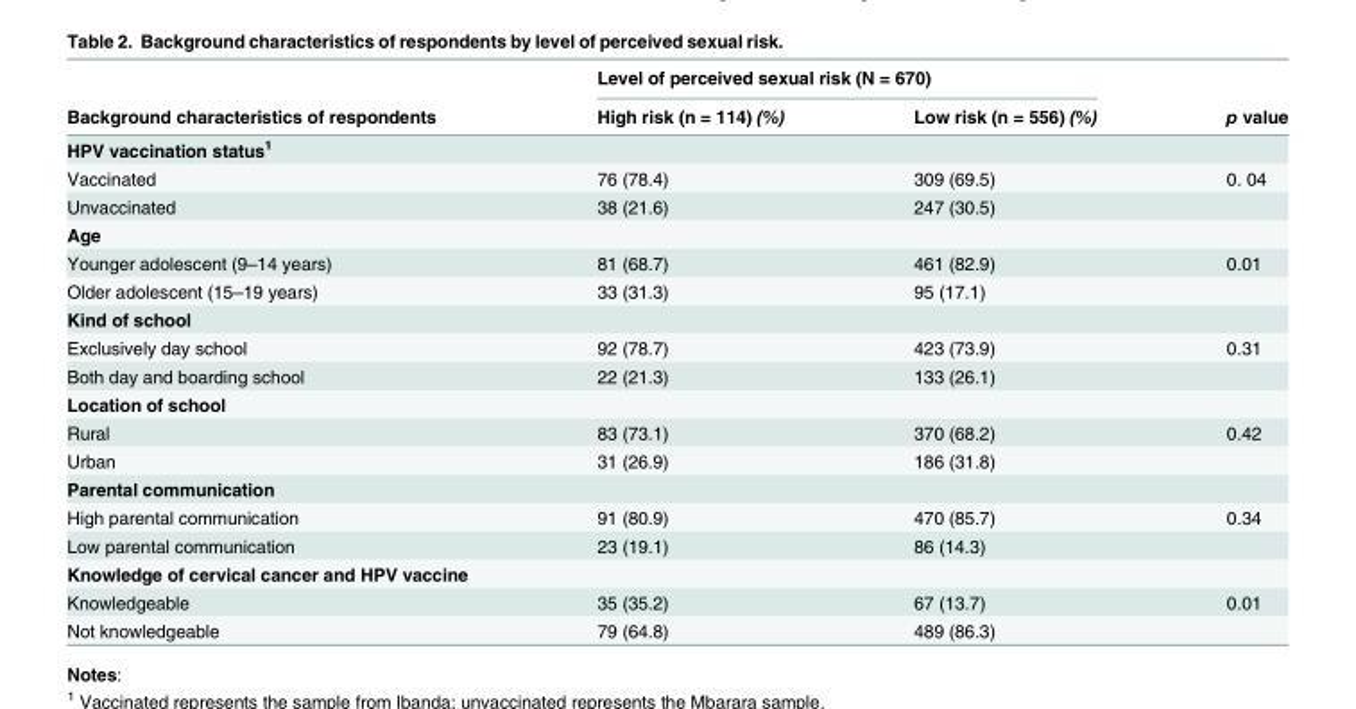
<table><thead><tr><td rowspan="2">Background characteristics of respondents</td><td colspan="2">Level of perceived sexual risk (N = 670)</td><td rowspan="2">p value</td></tr><tr><td>High risk (n = 114) (%)</td><td>Low risk (n = 556) (%)</td></tr></thead><tbody><tr><td colspan="4">HPV vaccination status<sup>1</sup></td></tr><tr><td>Vaccinated</td><td>76 (78.4)</td><td>309 (69.5)</td><td>0. 04</td></tr><tr><td>Unvaccinated</td><td>38 (21.6)</td><td>247 (30.5)</td><td></td></tr><tr><td colspan="4">Age</td></tr><tr><td>Younger adolescent (9–14 years)</td><td>81 (68.7)</td><td>461 (82.9)</td><td>0.01</td></tr><tr><td>Older adolescent (15–19 years)</td><td>33 (31.3)</td><td>95 (17.1)</td><td></td></tr><tr><td colspan="4">Kind of school</td></tr><tr><td>Exclusively day school</td><td>92 (78.7)</td><td>423 (73.9)</td><td>0.31</td></tr><tr><td>Both day and boarding school</td><td>22 (21.3)</td><td>133 (26.1)</td><td></td></tr><tr><td colspan="4">Location of school</td></tr><tr><td>Rural</td><td>83 (73.1)</td><td>370 (68.2)</td><td>0.42</td></tr><tr><td>Urban</td><td>31 (26.9)</td><td>186 (31.8)</td><td></td></tr><tr><td colspan="4">Parental communication</td></tr><tr><td>High parental communication</td><td>91 (80.9)</td><td>470 (85.7)</td><td>0.34</td></tr><tr><td>Low parental communication</td><td>23 (19.1)</td><td>86 (14.3)</td><td></td></tr><tr><td colspan="4">Knowledge of cervical cancer and HPV vaccine</td></tr><tr><td>Knowledgeable</td><td>35 (35.2)</td><td>67 (13.7)</td><td>0.01</td></tr><tr><td>Not knowledgeable</td><td>79 (64.8)</td><td>489 (86.3)</td><td></td></tr></tbody></table>